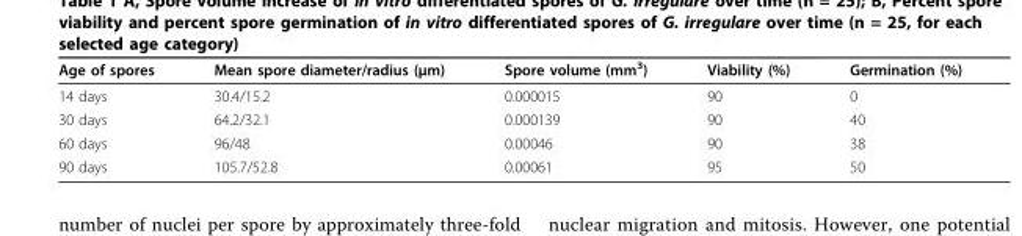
<table><thead><tr><td>Age of spores</td><td>Mean spore diameter/radius (μm)</td><td>Spore volume (mm<sup>3</sup>)</td><td>Viability (%)</td><td>Germination (%)</td></tr></thead><tbody><tr><td>14 days</td><td>30.4/15.2</td><td>0.000015</td><td>90</td><td>0</td></tr><tr><td>30 days</td><td>64.2/32.1</td><td>0.000139</td><td>90</td><td>40</td></tr><tr><td>60 days</td><td>96/48</td><td>0.00046</td><td>90</td><td>38</td></tr><tr><td>90 days</td><td>105.7/52.8</td><td>0.00061</td><td>95</td><td>50</td></tr></tbody></table>